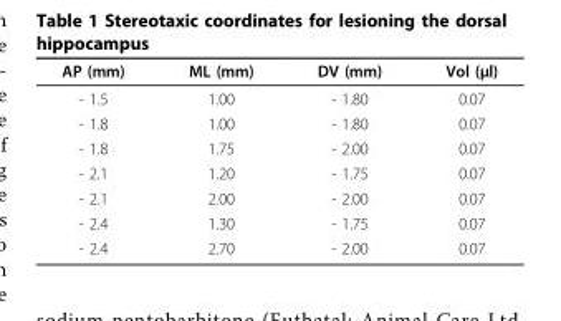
<table><thead><tr><td>AP (mm)</td><td>ML (mm)</td><td>DV (mm)</td><td>Vol (μl)</td></tr></thead><tbody><tr><td>- 1.5</td><td>1.00</td><td>- 1.80</td><td>0.07</td></tr><tr><td>- 1.8</td><td>1.00</td><td>- 1.80</td><td>0.07</td></tr><tr><td>- 1.8</td><td>1.75</td><td>- 2.00</td><td>0.07</td></tr><tr><td>- 2.1</td><td>1.20</td><td>- 1.75</td><td>0.07</td></tr><tr><td>- 2.1</td><td>2.00</td><td>- 2.00</td><td>0.07</td></tr><tr><td>- 2.4</td><td>1.30</td><td>- 1.75</td><td>0.07</td></tr><tr><td>- 2.4</td><td>2.70</td><td>- 2.00</td><td>0.07</td></tr></tbody></table>